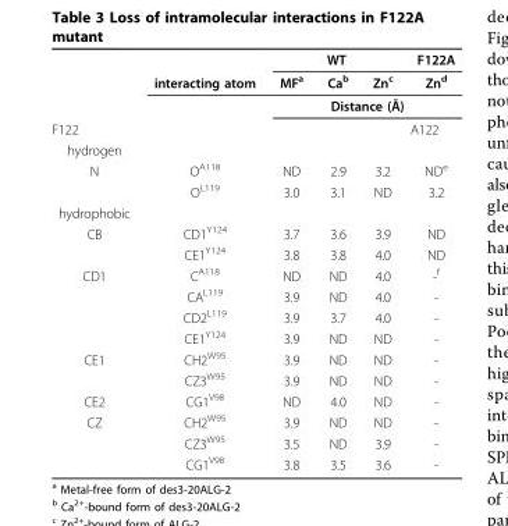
<table><thead><tr><td rowspan="2"></td><td rowspan="2">interacting atom</td><td colspan="3">WT</td><td rowspan="2">F122A Zn<sup>d</sup></td></tr><tr><td>MF<sup>a</sup></td><td>Ca<sup>b</sup></td><td>Zn<sup>c</sup></td></tr></thead><tbody><tr><td></td><td></td><td colspan="4">Distance (Å)</td></tr><tr><td>F122</td><td></td><td></td><td></td><td></td><td>A122</td></tr><tr><td colspan="6">hydrogen</td></tr><tr><td rowspan="2">N</td><td>O<sup>A118</sup></td><td>ND</td><td>2.9</td><td>3.2</td><td>ND<sup>e</sup></td></tr><tr><td>O<sup>L119</sup></td><td>3.0</td><td>3.1</td><td>ND</td><td>3.2</td></tr><tr><td colspan="6">hydrophobic</td></tr><tr><td rowspan="2">CB</td><td>CD1<sup>Y124</sup></td><td>3.7</td><td>3.6</td><td>3.9</td><td>ND</td></tr><tr><td>CE1<sup>Y124</sup></td><td>3.8</td><td>3.8</td><td>4.0</td><td>ND</td></tr><tr><td rowspan="4">CD1</td><td>C<sup>A118</sup></td><td>ND</td><td>ND</td><td>4.0</td><td>-<sup>f</sup></td></tr><tr><td>CA<sup>L119</sup></td><td>3.9</td><td>ND</td><td>4.0</td><td>-</td></tr><tr><td>CD2<sup>L119</sup></td><td>3.9</td><td>3.7</td><td>4.0</td><td>-</td></tr><tr><td>CE1<sup>Y124</sup></td><td>3.9</td><td>ND</td><td>ND</td><td>-</td></tr><tr><td rowspan="2">CE1</td><td>CH2<sup>W95</sup></td><td>3.9</td><td>ND</td><td>ND</td><td>-</td></tr><tr><td>CZ3<sup>W95</sup></td><td>3.9</td><td>ND</td><td>ND</td><td>-</td></tr><tr><td>CE2</td><td>CG1<sup>V98</sup></td><td>ND</td><td>4.0</td><td>ND</td><td>-</td></tr><tr><td rowspan="3">CZ</td><td>CH2<sup>W95</sup></td><td>3.9</td><td>ND</td><td>ND</td><td>-</td></tr><tr><td>CZ3<sup>W95</sup></td><td>3.5</td><td>ND</td><td>3.9</td><td>-</td></tr><tr><td>CG1<sup>V98</sup></td><td>3.8</td><td>3.5</td><td>3.6</td><td>-</td></tr></tbody></table>